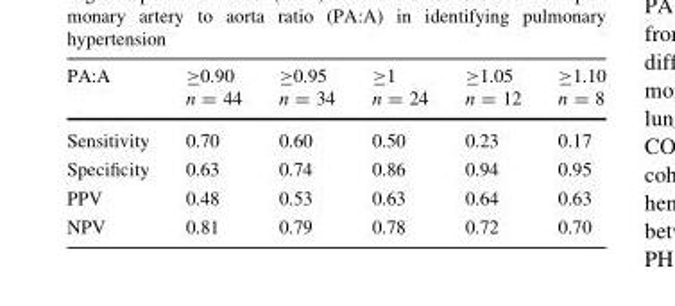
<table><thead><tr><td rowspan="2">PA:A</td><td rowspan="2">≥0.90 n = 44</td><td rowspan="2">≥0.95 n = 34</td><td rowspan="2">≥1 n = 24</td><td rowspan="2">≥1.05 n = 12</td><td rowspan="2">≥1.10 n = 8</td></tr><tr></tr></thead><tbody><tr><td>Sensitivity</td><td>0.70</td><td>0.60</td><td>0.50</td><td>0.23</td><td>0.17</td></tr><tr><td>Specificity</td><td>0.63</td><td>0.74</td><td>0.86</td><td>0.94</td><td>0.95</td></tr><tr><td>PPV</td><td>0.48</td><td>0.53</td><td>0.63</td><td>0.64</td><td>0.63</td></tr><tr><td>NPV</td><td>0.81</td><td>0.79</td><td>0.78</td><td>0.72</td><td>0.70</td></tr></tbody></table>